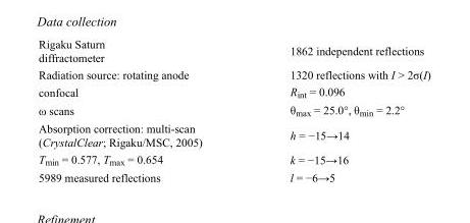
<table><tbody><tr><td>Rigaku Saturn diffractometer</td><td>1862 independent reflections</td></tr><tr><td>Radiation source: rotating anode</td><td>1320 reflections with I &gt; 2σ(I)</td></tr><tr><td>confocal</td><td>R<sub>int</sub> = 0.096</td></tr><tr><td>ω scans</td><td>θ<sub>max</sub> = 25.0°, θ<sub>min</sub> = 2.2°</td></tr><tr><td>Absorption correction: multi-scan (CrystalClear; Rigaku/MSC, 2005)</td><td>h = −15→14</td></tr><tr><td>T<sub>min</sub> = 0.577, T<sub>max</sub> = 0.654</td><td>k = −15→16</td></tr><tr><td>5989 measured reflections</td><td>l = −6→5</td></tr></tbody></table>